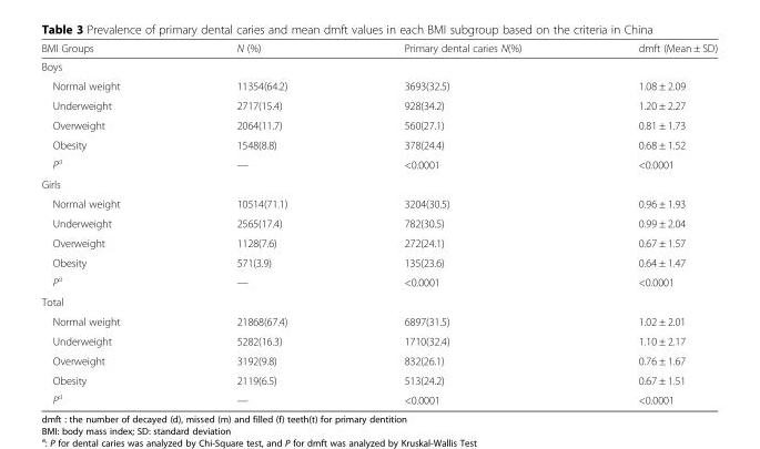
<table><thead><tr><td>BMI Groups</td><td>N (%)</td><td>Primary dental caries N(%)</td><td>dmft (Mean ± SD)</td></tr></thead><tbody><tr><td colspan="4">Boys</td></tr><tr><td>Normal weight</td><td>11354(64.2)</td><td>3693(32.5)</td><td>1.08 ± 2.09</td></tr><tr><td>Underweight</td><td>2717(15.4)</td><td>928(34.2)</td><td>1.20 ± 2.27</td></tr><tr><td>Overweight</td><td>2064(11.7)</td><td>560(27.1)</td><td>0.81 ± 1.73</td></tr><tr><td>Obesity</td><td>1548(8.8)</td><td>378(24.4)</td><td>0.68 ± 1.52</td></tr><tr><td>P<sup>a</sup></td><td>—</td><td>&lt;0.0001</td><td>&lt;0.0001</td></tr><tr><td colspan="4">Girls</td></tr><tr><td>Normal weight</td><td>10514(71.1)</td><td>3204(30.5)</td><td>0.96 ± 1.93</td></tr><tr><td>Underweight</td><td>2565(17.4)</td><td>782(30.5)</td><td>0.99 ± 2.04</td></tr><tr><td>Overweight</td><td>1128(7.6)</td><td>272(24.1)</td><td>0.67 ± 1.57</td></tr><tr><td>Obesity</td><td>571(3.9)</td><td>135(23.6)</td><td>0.64 ± 1.47</td></tr><tr><td>P<sup>a</sup></td><td>—</td><td>&lt;0.0001</td><td>&lt;0.0001</td></tr><tr><td colspan="4">Total</td></tr><tr><td>Normal weight</td><td>21868(67.4)</td><td>6897(31.5)</td><td>1.02 ± 2.01</td></tr><tr><td>Underweight</td><td>5282(16.3)</td><td>1710(32.4)</td><td>1.10 ± 2.17</td></tr><tr><td>Overweight</td><td>3192(9.8)</td><td>832(26.1)</td><td>0.76 ± 1.67</td></tr><tr><td>Obesity</td><td>2119(6.5)</td><td>513(24.2)</td><td>0.67 ± 1.51</td></tr><tr><td>P<sup>a</sup></td><td>—</td><td>&lt;0.0001</td><td>&lt;0.0001</td></tr></tbody></table>